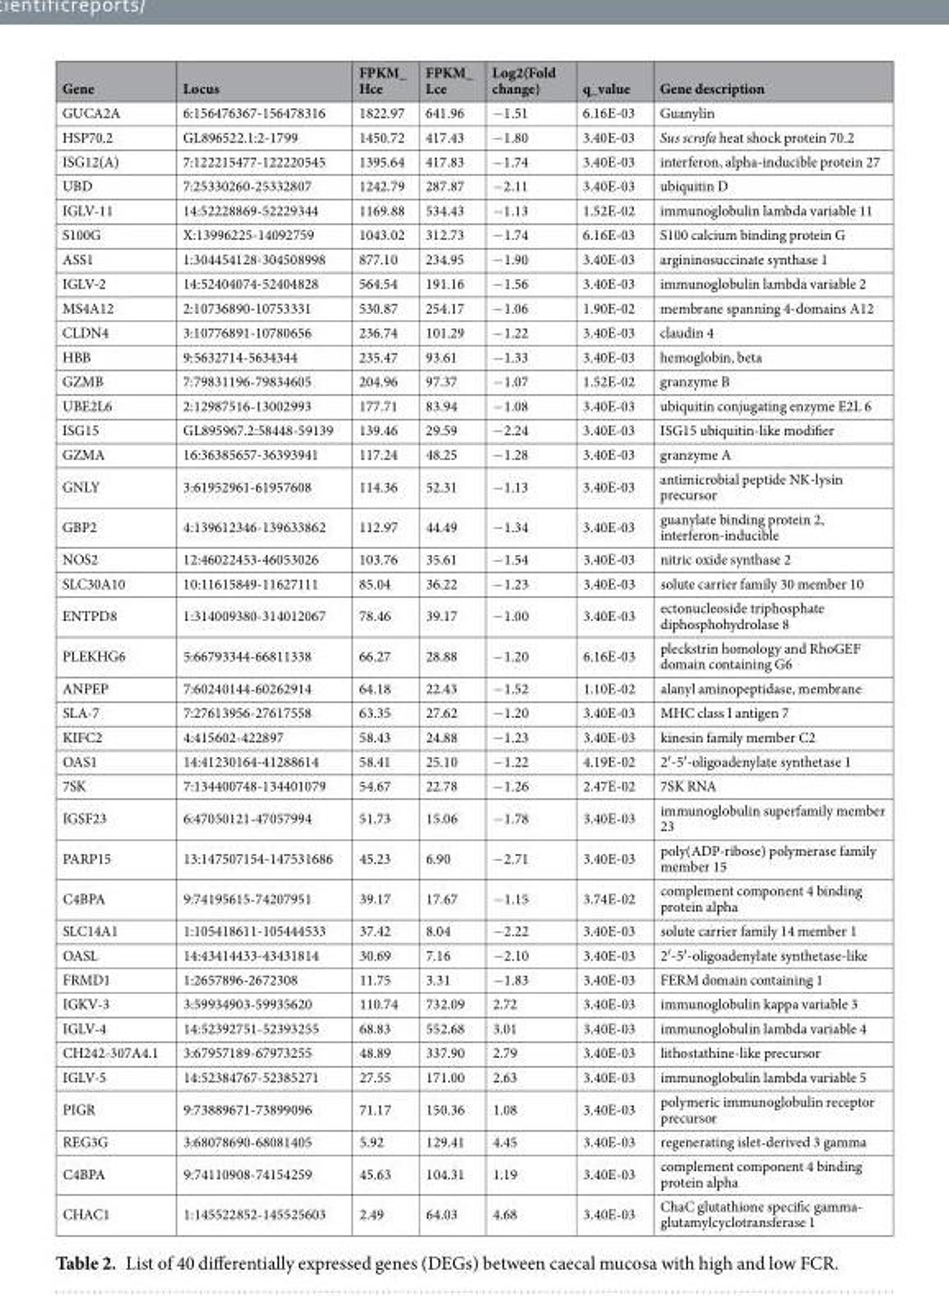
<table><thead><tr><td>Gene</td><td>Locus</td><td>FPKM_ Hce</td><td>FPKM_ Lce</td><td>Log2(Fold change)</td><td>q_value</td><td>Gene description</td></tr></thead><tbody><tr><td>GUCA2A</td><td>6:156476367-156478316</td><td>1822.97</td><td>641.96</td><td>−1.51</td><td>6.16E-03</td><td>Guanylin</td></tr><tr><td>HSP70.2</td><td>GL896522.1:2-1799</td><td>1450.72</td><td>417.43</td><td>−1.80</td><td>3.40E-03</td><td>Sus scrofa heat shock protein 70.2</td></tr><tr><td>ISG12(A)</td><td>7:122215477-122220545</td><td>1395.64</td><td>417.83</td><td>−1.74</td><td>3.40E-03</td><td>interferon, alpha-inducible protein 27</td></tr><tr><td>UBD</td><td>7:25330260-25332807</td><td>1242.79</td><td>287.87</td><td>−2.11</td><td>3.40E-03</td><td>ubiquitin D</td></tr><tr><td>IGLV-11</td><td>14:52228869-52229344</td><td>1169.88</td><td>534.43</td><td>−1.13</td><td>1.52E-02</td><td>immunoglobulin lambda variable 11</td></tr><tr><td>S100G</td><td>X:13996225-14092759</td><td>1043.02</td><td>312.73</td><td>−1.74</td><td>6.16E-03</td><td>S100 calcium binding protein G</td></tr><tr><td>ASS1</td><td>1:304454128-304508998</td><td>877.10</td><td>234.95</td><td>−1.90</td><td>3.40E-03</td><td>argininosuccinate synthase 1</td></tr><tr><td>IGLV-2</td><td>14:52404074-52404828</td><td>564.54</td><td>191.16</td><td>−1.56</td><td>3.40E-03</td><td>immunoglobulin lambda variable 2</td></tr><tr><td>MS4A12</td><td>2:10736890-10753331</td><td>530.87</td><td>254.17</td><td>−1.06</td><td>1.90E-02</td><td>membrane spanning 4-domains A12</td></tr><tr><td>CLDN4</td><td>3:10776891-10780656</td><td>236.74</td><td>101.29</td><td>−1.22</td><td>3.40E-03</td><td>claudin 4</td></tr><tr><td>HBB</td><td>9:5632714-5634344</td><td>235.47</td><td>93.61</td><td>−1.33</td><td>3.40E-03</td><td>hemoglobin, beta</td></tr><tr><td>GZMB</td><td>7:79831196-79834605</td><td>204.96</td><td>97.37</td><td>−1.07</td><td>1.52E-02</td><td>granzyme B</td></tr><tr><td>UBE2L6</td><td>2:12987516-13002993</td><td>177.71</td><td>83.94</td><td>−1.08</td><td>3.40E-03</td><td>ubiquitin conjugating enzyme E2L 6</td></tr><tr><td>ISG15</td><td>GL895967.2:58448-59139</td><td>139.46</td><td>29.59</td><td>−2.24</td><td>3.40E-03</td><td>ISG15 ubiquitin-like modifier</td></tr><tr><td>GZMA</td><td>16:36385657-36393941</td><td>117.24</td><td>48.25</td><td>−1.28</td><td>3.40E-03</td><td>granzyme A</td></tr><tr><td>GNLY</td><td>3:61952961-61957608</td><td>114.36</td><td>52.31</td><td>−1.13</td><td>3.40E-03</td><td>antimicrobial peptide NK-lysin precursor</td></tr><tr><td>GBP2</td><td>4:139612346-139633862</td><td>112.97</td><td>44.49</td><td>−1.34</td><td>3.40E-03</td><td>guanylate binding protein 2, interferon-inducible</td></tr><tr><td>NOS2</td><td>12:46022453-46053026</td><td>103.76</td><td>35.61</td><td>−1.54</td><td>3.40E-03</td><td>nitric oxide synthase 2</td></tr><tr><td>SLC30A10</td><td>10:11615849-11627111</td><td>85.04</td><td>36.22</td><td>−1.23</td><td>3.40E-03</td><td>solute carrier family 30 member 10</td></tr><tr><td>ENTPD8</td><td>1:314009380-314012067</td><td>78.46</td><td>39.17</td><td>−1.00</td><td>3.40E-03</td><td>ectonucleoside triphosphate diphosphohydrolase 8</td></tr><tr><td>PLEKHG6</td><td>5:66793344-66811338</td><td>66.27</td><td>28.88</td><td>−1.20</td><td>6.16E-03</td><td>pleckstrin homology and RhoGEF domain containing G6</td></tr><tr><td>ANPEP</td><td>7:60240144-60262914</td><td>64.18</td><td>22.43</td><td>−1.52</td><td>1.10E-02</td><td>alanyl aminopeptidase, membrane</td></tr><tr><td>SLA-7</td><td>7:27613956-27617558</td><td>63.35</td><td>27.62</td><td>−1.20</td><td>3.40E-03</td><td>MHC class I antigen 7</td></tr><tr><td>KIFC2</td><td>4:415602-422897</td><td>58.43</td><td>24.88</td><td>−1.23</td><td>3.40E-03</td><td>kinesin family member C2</td></tr><tr><td>OAS1</td><td>14:41230164-41288614</td><td>58.41</td><td>25.10</td><td>−1.22</td><td>4.19E-02</td><td>2′-5′-oligoadenylate synthetase 1</td></tr><tr><td>7SK</td><td>7:134400748-134401079</td><td>54.67</td><td>22.78</td><td>−1.26</td><td>2.47E-02</td><td>7SK RNA</td></tr><tr><td>IGSF23</td><td>6:47050121-47057994</td><td>51.73</td><td>15.06</td><td>−1.78</td><td>3.40E-03</td><td>immunoglobulin superfamily member 23</td></tr><tr><td>PARP15</td><td>13:147507154-147531686</td><td>45.23</td><td>6.90</td><td>−2.71</td><td>3.40E-03</td><td>poly(ADP-ribose) polymerase family member 15</td></tr><tr><td>C4BPA</td><td>9:74195615-74207951</td><td>39.17</td><td>17.67</td><td>−1.15</td><td>3.74E-02</td><td>complement component 4 binding protein alpha</td></tr><tr><td>SLC14A1</td><td>1:105418611-105444533</td><td>37.42</td><td>8.04</td><td>−2.22</td><td>3.40E-03</td><td>solute carrier family 14 member 1</td></tr><tr><td>OASL</td><td>14:43414433-43431814</td><td>30.69</td><td>7.16</td><td>−2.10</td><td>3.40E-03</td><td>2′-5′-oligoadenylate synthetase-like</td></tr><tr><td>FRMD1</td><td>1:2657896-2672308</td><td>11.75</td><td>3.31</td><td>−1.83</td><td>3.40E-03</td><td>FERM domain containing 1</td></tr><tr><td>IGKV-3</td><td>3:59934903-59935620</td><td>110.74</td><td>732.09</td><td>2.72</td><td>3.40E-03</td><td>immunoglobulin kappa variable 3</td></tr><tr><td>IGLV-4</td><td>14:52392751-52393255</td><td>68.83</td><td>552.68</td><td>3.01</td><td>3.40E-03</td><td>immunoglobulin lambda variable 4</td></tr><tr><td>CH242-307A4.1</td><td>3:67957189-67973255</td><td>48.89</td><td>337.90</td><td>2.79</td><td>3.40E-03</td><td>lithostathine-like precursor</td></tr><tr><td>IGLV-5</td><td>14:52384767-52385271</td><td>27.55</td><td>171.00</td><td>2.63</td><td>3.40E-03</td><td>immunoglobulin lambda variable 5</td></tr><tr><td>PIGR</td><td>9:73889671-73899096</td><td>71.17</td><td>150.36</td><td>1.08</td><td>3.40E-03</td><td>polymeric immunoglobulin receptor precursor</td></tr><tr><td>REG3G</td><td>3:68078690-68081405</td><td>5.92</td><td>129.41</td><td>4.45</td><td>3.40E-03</td><td>regenerating islet-derived 3 gamma</td></tr><tr><td>C4BPA</td><td>9:74110908-74154259</td><td>45.63</td><td>104.31</td><td>1.19</td><td>3.40E-03</td><td>complement component 4 binding protein alpha</td></tr><tr><td>CHAC1</td><td>1:145522852-145525603</td><td>2.49</td><td>64.03</td><td>4.68</td><td>3.40E-03</td><td>ChaC glutathione specific gamma- glutamylcyclotransferase 1</td></tr></tbody></table>